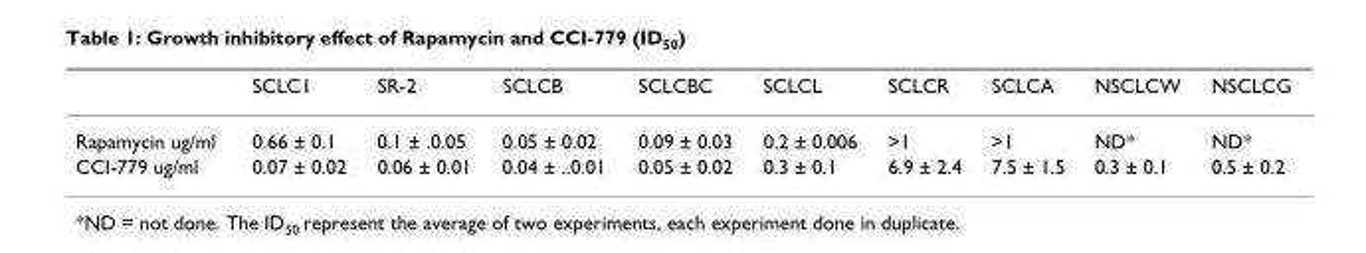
<table><thead><tr><td></td><td>SCLC1</td><td>SR-2</td><td>SCLCB</td><td>SCLCBC</td><td>SCLCL</td><td>SCLCR</td><td>SCLCA</td><td>NSCLCW</td><td>NSCLCG</td></tr></thead><tbody><tr><td>Rapamycin ug/ml</td><td>0.66 ± 0.1</td><td>0.1 ± .0.05</td><td>0.05 ± 0.02</td><td>0.09 ± 0.03</td><td>0.2 ± 0.006</td><td>&gt;1</td><td>&gt;1</td><td>ND*</td><td>ND*</td></tr><tr><td>CCI-779 ug/ml</td><td>0.07 ± 0.02</td><td>0.06 ± 0.01</td><td>0.04 ± ..0.01</td><td>0.05 ± 0.02</td><td>0.3 ± 0.1</td><td>6.9 ± 2.4</td><td>7.5 ± 1.5</td><td>0.3 ± 0.1</td><td>0.5 ± 0.2</td></tr></tbody></table>